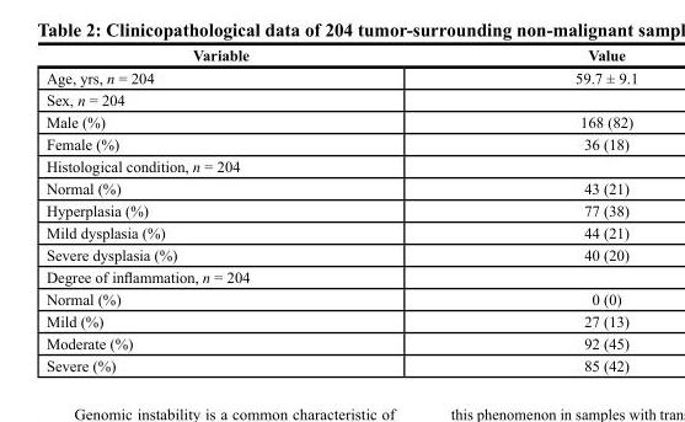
<table><thead><tr><td>Variable</td><td>Value</td></tr></thead><tbody><tr><td>Age, yrs, n = 204</td><td>59.7 ± 9.1</td></tr><tr><td colspan="2">Sex, n = 204</td></tr><tr><td>Male (%)</td><td>168 (82)</td></tr><tr><td>Female (%)</td><td>36 (18)</td></tr><tr><td colspan="2">Histological condition, n = 204</td></tr><tr><td>Normal (%)</td><td>43 (21)</td></tr><tr><td>Hyperplasia (%)</td><td>77 (38)</td></tr><tr><td>Mild dysplasia (%)</td><td>44 (21)</td></tr><tr><td>Severe dysplasia (%)</td><td>40 (20)</td></tr><tr><td colspan="2">Degree of inflammation, n = 204</td></tr><tr><td>Normal (%)</td><td>0 (0)</td></tr><tr><td>Mild (%)</td><td>27 (13)</td></tr><tr><td>Moderate (%)</td><td>92 (45)</td></tr><tr><td>Severe (%)</td><td>85 (42)</td></tr></tbody></table>